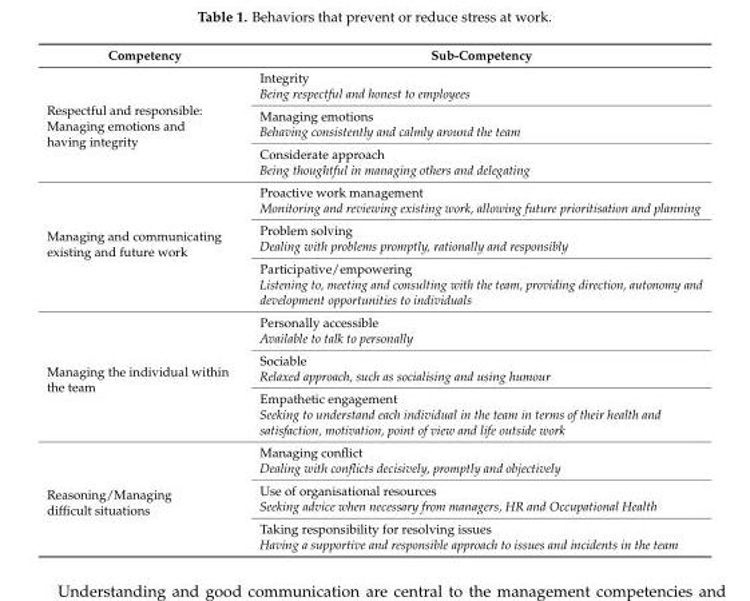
<table><thead><tr><td>Competency</td><td>Sub-Competency</td></tr></thead><tbody><tr><td rowspan="3">Respectful and responsible: Managing emotions and having integrity</td><td>Integrity Being respectful and honest to employees</td></tr><tr><td>Managing emotions Behaving consistently and calmly around the team</td></tr><tr><td>Considerate approach Being thoughtful in managing others and delegating</td></tr><tr><td rowspan="3">Managing and communicating existing and future work</td><td>Proactive work management Monitoring and reviewing existing work, allowing future prioritisation and planning</td></tr><tr><td>Problem solving Dealing with problems promptly, rationally and responsibly</td></tr><tr><td>Participative/empowering Listening to, meeting and consulting with the team, providing direction, autonomy and development opportunities to individuals</td></tr><tr><td rowspan="3">Managing the individual within the team</td><td>Personally accessible Available to talk to personally</td></tr><tr><td>Sociable Relaxed approach, such as socialising and using humour</td></tr><tr><td>Empathetic engagement Seeking to understand each individual in the team in terms of their health and satisfaction, motivation, point of view and life outside work</td></tr><tr><td rowspan="3">Reasoning/Managing difficult situations</td><td>Managing conflict Dealing with conflicts decisively, promptly and objectively</td></tr><tr><td>Use of organisational resources Seeking advice when necessary from managers, HR and Occupational Health</td></tr><tr><td>Taking responsibility for resolving issues Having a supportive and responsible approach to issues and incidents in the team</td></tr></tbody></table>